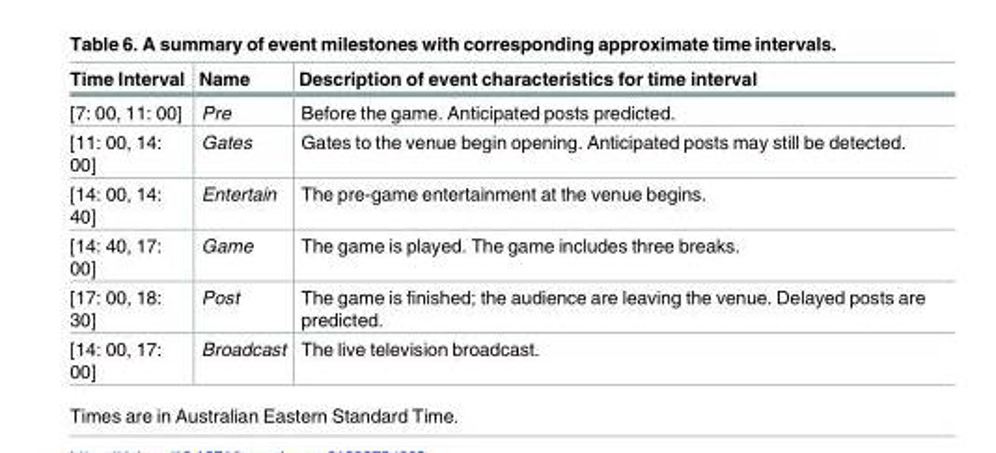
<table><thead><tr><td>Time Interval</td><td>Name</td><td>Description of event characteristics for time interval</td></tr></thead><tbody><tr><td>[7: 00, 11: 00]</td><td>Pre</td><td>Before the game. Anticipated posts predicted.</td></tr><tr><td>[11: 00, 14: 00]</td><td>Gates</td><td>Gates to the venue begin opening. Anticipated posts may still be detected.</td></tr><tr><td>[14: 00, 14: 40]</td><td>Entertain</td><td>The pre-game entertainment at the venue begins.</td></tr><tr><td>[14: 40, 17: 00]</td><td>Game</td><td>The game is played. The game includes three breaks.</td></tr><tr><td>[17: 00, 18: 30]</td><td>Post</td><td>The game is finished; the audience are leaving the venue. Delayed posts are predicted.</td></tr><tr><td>[14: 00, 17: 00]</td><td>Broadcast</td><td>The live television broadcast.</td></tr></tbody></table>